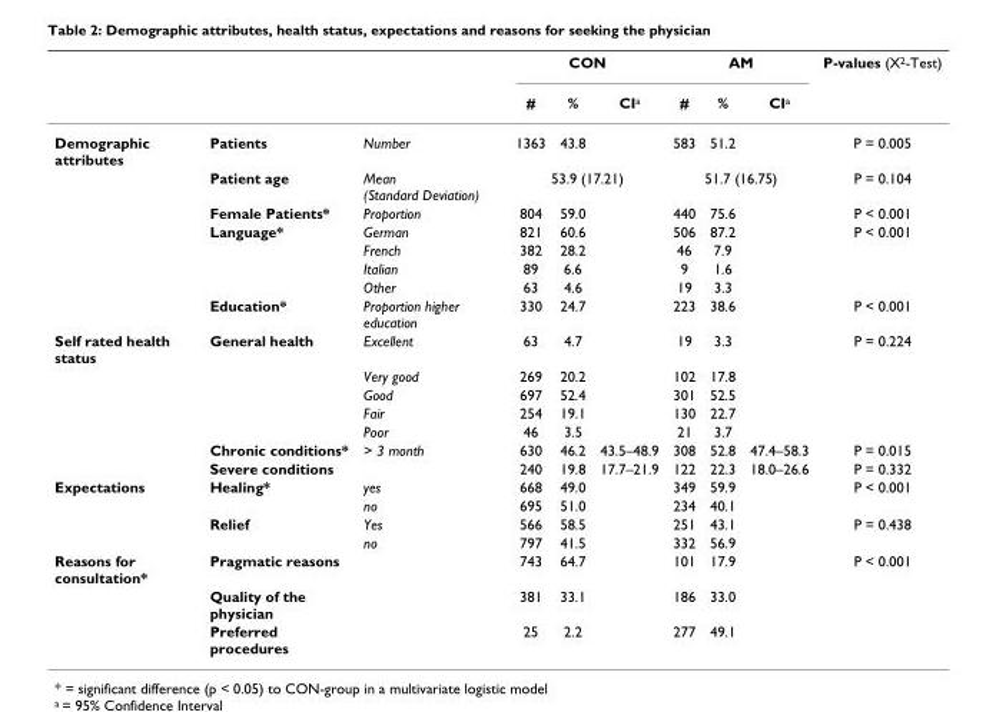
<table><thead><tr><td rowspan="2"></td><td rowspan="2"></td><td rowspan="2"></td><td colspan="3">CON</td><td colspan="3">AM</td><td rowspan="2">P-values (X<sup>2</sup>-Test)</td></tr><tr><td>#</td><td>%</td><td>CI<sup>a</sup></td><td>#</td><td>%</td><td>CI<sup>a</sup></td></tr></thead><tbody><tr><td rowspan="8">Demographic attributes</td><td>Patients</td><td>Number</td><td>1363</td><td>43.8</td><td></td><td>583</td><td>51.2</td><td></td><td>P = 0.005</td></tr><tr><td>Patient age</td><td>Mean (Standard Deviation)</td><td colspan="3">53.9 (17.21)</td><td colspan="3">51.7 (16.75)</td><td>P = 0.104</td></tr><tr><td>Female Patients*</td><td>Proportion</td><td>804</td><td>59.0</td><td></td><td>440</td><td>75.6</td><td></td><td>P &lt; 0.001</td></tr><tr><td>Language*</td><td>German</td><td>821</td><td>60.6</td><td></td><td>506</td><td>87.2</td><td></td><td>P &lt; 0.001</td></tr><tr><td></td><td>French</td><td>382</td><td>28.2</td><td></td><td>46</td><td>7.9</td><td></td><td></td></tr><tr><td></td><td>Italian</td><td>89</td><td>6.6</td><td></td><td>9</td><td>1.6</td><td></td><td></td></tr><tr><td></td><td>Other</td><td>63</td><td>4.6</td><td></td><td>19</td><td>3.3</td><td></td><td></td></tr><tr><td>Education*</td><td>Proportion higher education</td><td>330</td><td>24.7</td><td></td><td>223</td><td>38.6</td><td></td><td>P &lt; 0.001</td></tr><tr><td rowspan="7">Self rated health status</td><td>General health</td><td>Excellent</td><td>63</td><td>4.7</td><td></td><td>19</td><td>3.3</td><td></td><td>P = 0.224</td></tr><tr><td></td><td>Very good</td><td>269</td><td>20.2</td><td></td><td>102</td><td>17.8</td><td></td><td></td></tr><tr><td></td><td>Good</td><td>697</td><td>52.4</td><td></td><td>301</td><td>52.5</td><td></td><td></td></tr><tr><td></td><td>Fair</td><td>254</td><td>19.1</td><td></td><td>130</td><td>22.7</td><td></td><td></td></tr><tr><td></td><td>Poor</td><td>46</td><td>3.5</td><td></td><td>21</td><td>3.7</td><td></td><td></td></tr><tr><td>Chronic conditions*</td><td>&gt; 3 month</td><td>630</td><td>46.2</td><td>43.5–48.9</td><td>308</td><td>52.8</td><td>47.4–58.3</td><td>P = 0.015</td></tr><tr><td>Severe conditions</td><td></td><td>240</td><td>19.8</td><td>17.7–21.9</td><td>122</td><td>22.3</td><td>18.0–26.6</td><td>P = 0.332</td></tr><tr><td rowspan="4">Expectations</td><td>Healing*</td><td>yes</td><td>668</td><td>49.0</td><td></td><td>349</td><td>59.9</td><td></td><td>P &lt; 0.001</td></tr><tr><td></td><td>no</td><td>695</td><td>51.0</td><td></td><td>234</td><td>40.1</td><td></td><td></td></tr><tr><td>Relief</td><td>Yes</td><td>566</td><td>58.5</td><td></td><td>251</td><td>43.1</td><td></td><td>P = 0.438</td></tr><tr><td></td><td>no</td><td>797</td><td>41.5</td><td></td><td>332</td><td>56.9</td><td></td><td></td></tr><tr><td rowspan="3">Reasons for consultation*</td><td>Pragmatic reasons</td><td></td><td>743</td><td>64.7</td><td></td><td>101</td><td>17.9</td><td></td><td>P &lt; 0.001</td></tr><tr><td>Quality of the physician</td><td></td><td>381</td><td>33.1</td><td></td><td>186</td><td>33.0</td><td></td><td></td></tr><tr><td>Preferred procedures</td><td></td><td>25</td><td>2.2</td><td></td><td>277</td><td>49.1</td><td></td><td></td></tr></tbody></table>